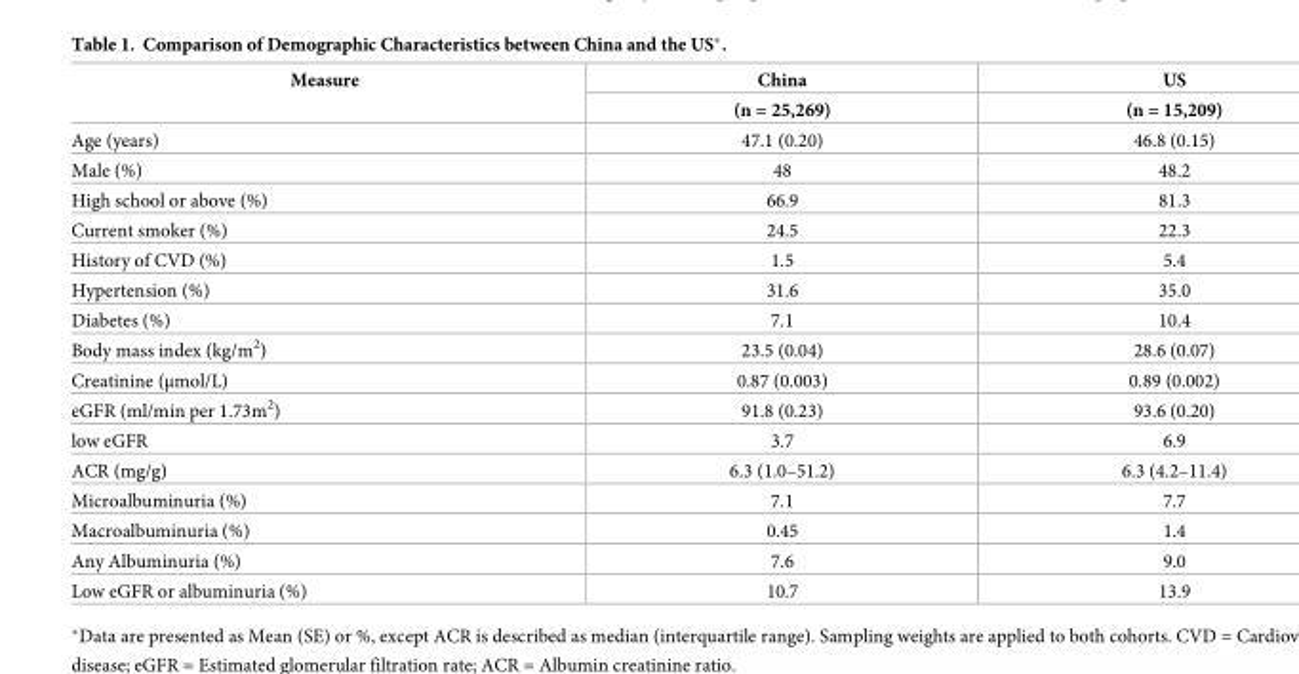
<table><thead><tr><td rowspan="2">Measure</td><td rowspan="2">China (n = 25,269)</td><td rowspan="2">US (n = 15,209)</td></tr><tr></tr></thead><tbody><tr><td>Age (years)</td><td>47.1 (0.20)</td><td>46.8 (0.15)</td></tr><tr><td>Male (%)</td><td>48</td><td>48.2</td></tr><tr><td>High school or above (%)</td><td>66.9</td><td>81.3</td></tr><tr><td>Current smoker (%)</td><td>24.5</td><td>22.3</td></tr><tr><td>History of CVD (%)</td><td>1.5</td><td>5.4</td></tr><tr><td>Hypertension (%)</td><td>31.6</td><td>35.0</td></tr><tr><td>Diabetes (%)</td><td>7.1</td><td>10.4</td></tr><tr><td>Body mass index (kg/m<sup>2</sup>)</td><td>23.5 (0.04)</td><td>28.6 (0.07)</td></tr><tr><td>Creatinine (μmol/L)</td><td>0.87 (0.003)</td><td>0.89 (0.002)</td></tr><tr><td>eGFR (ml/min per 1.73m<sup>2</sup>)</td><td>91.8 (0.23)</td><td>93.6 (0.20)</td></tr><tr><td>low eGFR</td><td>3.7</td><td>6.9</td></tr><tr><td>ACR (mg/g)</td><td>6.3 (1.0–51.2)</td><td>6.3 (4.2–11.4)</td></tr><tr><td>Microalbuminuria (%)</td><td>7.1</td><td>7.7</td></tr><tr><td>Macroalbuminuria (%)</td><td>0.45</td><td>1.4</td></tr><tr><td>Any Albuminuria (%)</td><td>7.6</td><td>9.0</td></tr><tr><td>Low eGFR or albuminuria (%)</td><td>10.7</td><td>13.9</td></tr></tbody></table>